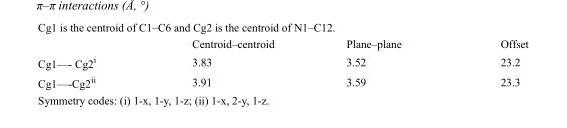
<table><thead><tr><td></td><td>Centroid–centroid</td><td>Plane–plane</td><td>Offset</td></tr></thead><tbody><tr><td>Cg1—- Cg2<sup>i</sup></td><td>3.83</td><td>3.52</td><td>23.2</td></tr><tr><td>Cg1—-Cg2<sup>ii</sup></td><td>3.91</td><td>3.59</td><td>23.3</td></tr></tbody></table>